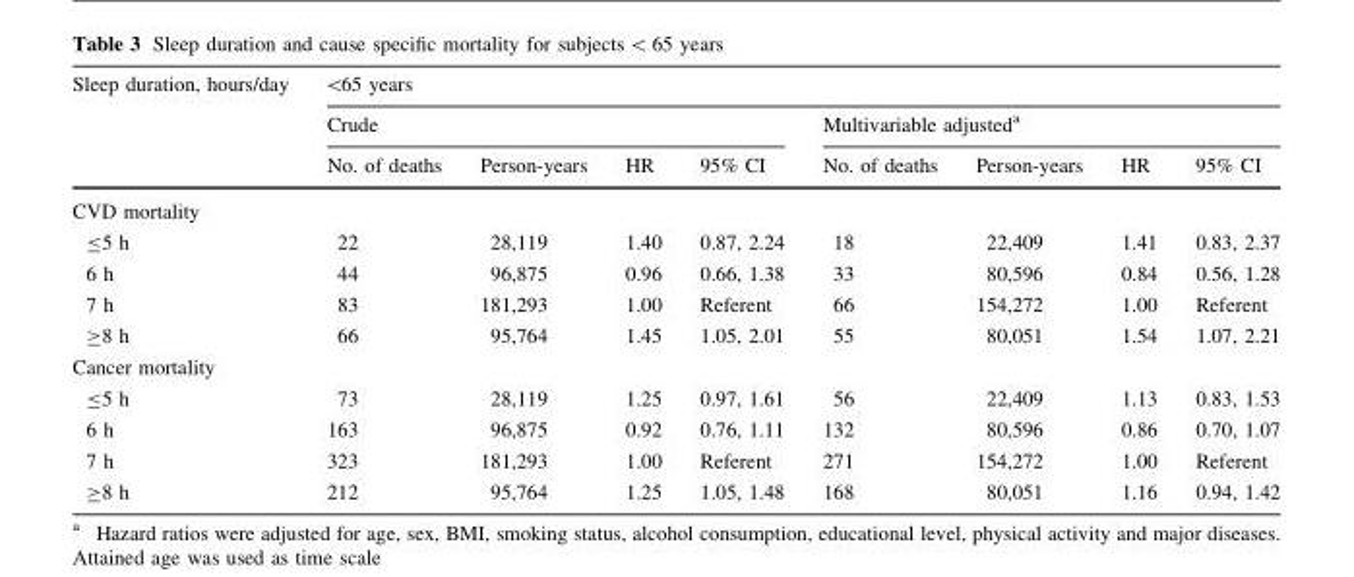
<table><thead><tr><td rowspan="3">Sleep duration, hours/day</td><td colspan="8">&lt;65 years</td></tr><tr><td colspan="4">Crude</td><td colspan="4">Multivariable adjusted<sup>a</sup></td></tr><tr><td>No. of deaths</td><td>Person-years</td><td>HR</td><td>95% CI</td><td>No. of deaths</td><td>Person-years</td><td>HR</td><td>95% CI</td></tr></thead><tbody><tr><td colspan="9">CVD mortality</td></tr><tr><td>≤5 h</td><td>22</td><td>28,119</td><td>1.40</td><td>0.87, 2.24</td><td>18</td><td>22,409</td><td>1.41</td><td>0.83, 2.37</td></tr><tr><td>6 h</td><td>44</td><td>96,875</td><td>0.96</td><td>0.66, 1.38</td><td>33</td><td>80,596</td><td>0.84</td><td>0.56, 1.28</td></tr><tr><td>7 h</td><td>83</td><td>181,293</td><td>1.00</td><td>Referent</td><td>66</td><td>154,272</td><td>1.00</td><td>Referent</td></tr><tr><td>≥8 h</td><td>66</td><td>95,764</td><td>1.45</td><td>1.05, 2.01</td><td>55</td><td>80,051</td><td>1.54</td><td>1.07, 2.21</td></tr><tr><td colspan="9">Cancer mortality</td></tr><tr><td>≤5 h</td><td>73</td><td>28,119</td><td>1.25</td><td>0.97, 1.61</td><td>56</td><td>22,409</td><td>1.13</td><td>0.83, 1.53</td></tr><tr><td>6 h</td><td>163</td><td>96,875</td><td>0.92</td><td>0.76, 1.11</td><td>132</td><td>80,596</td><td>0.86</td><td>0.70, 1.07</td></tr><tr><td>7 h</td><td>323</td><td>181,293</td><td>1.00</td><td>Referent</td><td>271</td><td>154,272</td><td>1.00</td><td>Referent</td></tr><tr><td>≥8 h</td><td>212</td><td>95,764</td><td>1.25</td><td>1.05, 1.48</td><td>168</td><td>80,051</td><td>1.16</td><td>0.94, 1.42</td></tr></tbody></table>